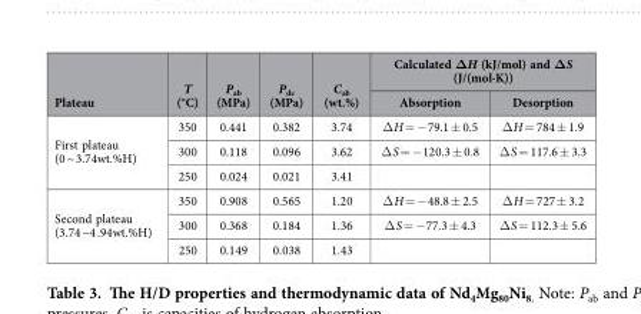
<table><thead><tr><td rowspan="2">Plateau</td><td rowspan="2">T (°C)</td><td rowspan="2">P<sub>ab</sub> (MPa)</td><td rowspan="2">P<sub>de</sub> (MPa)</td><td rowspan="2">C<sub>ab</sub> (wt.%)</td><td colspan="2">Calculated ΔH (kJ/mol) and ΔS (J/(mol·K))</td></tr><tr><td>Absorption</td><td>Desorption</td></tr></thead><tbody><tr><td rowspan="3">First plateau (0 ~ 3.74wt.%H)</td><td>350</td><td>0.441</td><td>0.382</td><td>3.74</td><td>Δ H = − 79.1 ± 0.5</td><td>Δ H = 784 ± 1.9</td></tr><tr><td>300</td><td>0.118</td><td>0.096</td><td>3.62</td><td>Δ S = − 120.3 ± 0.8</td><td>Δ S = 117.6 ± 3.3</td></tr><tr><td>250</td><td>0.024</td><td>0.021</td><td>3.41</td><td></td><td></td></tr><tr><td rowspan="3">Second plateau (3.74 ~4 .94wt.%H)</td><td>350</td><td>0.908</td><td>0.565</td><td>1.20</td><td>Δ H = − 48.8 ± 2.5</td><td>Δ H = 727 ± 3.2</td></tr><tr><td>300</td><td>0.368</td><td>0.184</td><td>1.36</td><td>Δ S = − 77.3 ± 4.3</td><td>Δ S = 112.3 ± 5.6</td></tr><tr><td>250</td><td>0.149</td><td>0.038</td><td>1.43</td><td></td><td></td></tr></tbody></table>